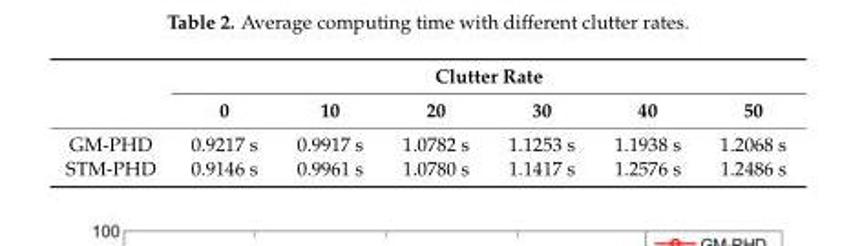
<table><thead><tr><td rowspan="2"></td><td colspan="6">Clutter Rate</td></tr><tr><td>0</td><td>10</td><td>20</td><td>30</td><td>40</td><td>50</td></tr></thead><tbody><tr><td>GM-PHD</td><td>0.9217 s</td><td>0.9917 s</td><td>1.0782 s</td><td>1.1253 s</td><td>1.1938 s</td><td>1.2068 s</td></tr><tr><td>STM-PHD</td><td>0.9146 s</td><td>0.9961 s</td><td>1.0780 s</td><td>1.1417 s</td><td>1.2576 s</td><td>1.2486 s</td></tr></tbody></table>